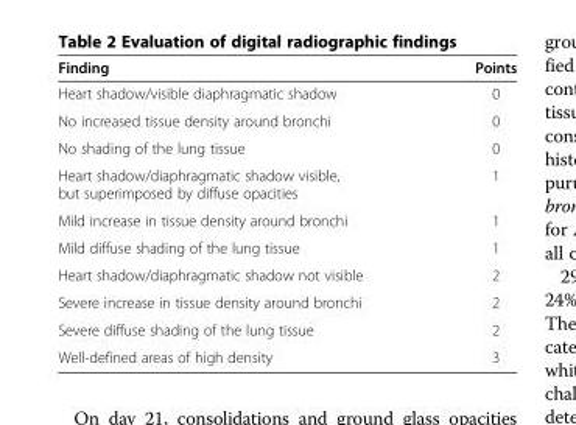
<table><thead><tr><td>Finding</td><td>Points</td></tr></thead><tbody><tr><td>Heart shadow/visible diaphragmatic shadow</td><td>0</td></tr><tr><td>No increased tissue density around bronchi</td><td>0</td></tr><tr><td>No shading of the lung tissue</td><td>0</td></tr><tr><td>Heart shadow/diaphragmatic shadow visible, but superimposed by diffuse opacities</td><td>1</td></tr><tr><td>Mild increase in tissue density around bronchi</td><td>1</td></tr><tr><td>Mild diffuse shading of the lung tissue</td><td>1</td></tr><tr><td>Heart shadow/diaphragmatic shadow not visible</td><td>2</td></tr><tr><td>Severe increase in tissue density around bronchi</td><td>2</td></tr><tr><td>Severe diffuse shading of the lung tissue</td><td>2</td></tr><tr><td>Well-defined areas of high density</td><td>3</td></tr></tbody></table>